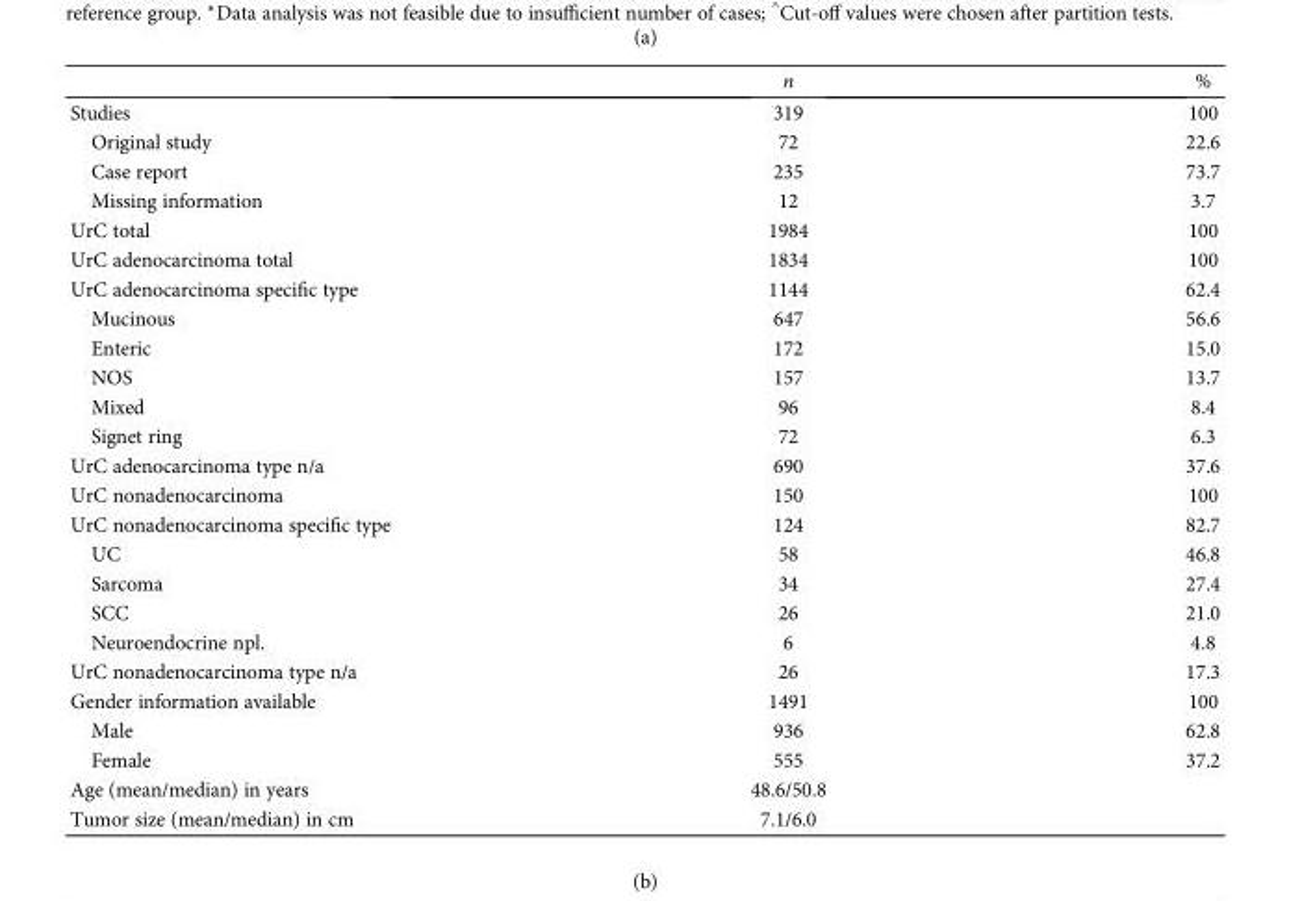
<table><thead><tr><td></td><td>n</td><td>%</td></tr></thead><tbody><tr><td>Studies</td><td>319</td><td>100</td></tr><tr><td>Original study</td><td>72</td><td>22.6</td></tr><tr><td>Case report</td><td>235</td><td>73.7</td></tr><tr><td>Missing information</td><td>12</td><td>3.7</td></tr><tr><td>UrC total</td><td>1984</td><td>100</td></tr><tr><td>UrC adenocarcinoma total</td><td>1834</td><td>100</td></tr><tr><td>UrC adenocarcinoma specific type</td><td>1144</td><td>62.4</td></tr><tr><td>Mucinous</td><td>647</td><td>56.6</td></tr><tr><td>Enteric</td><td>172</td><td>15.0</td></tr><tr><td>NOS</td><td>157</td><td>13.7</td></tr><tr><td>Mixed</td><td>96</td><td>8.4</td></tr><tr><td>Signet ring</td><td>72</td><td>6.3</td></tr><tr><td>UrC adenocarcinoma type n/a</td><td>690</td><td>37.6</td></tr><tr><td>UrC nonadenocarcinoma</td><td>150</td><td>100</td></tr><tr><td>UrC nonadenocarcinoma specific type</td><td>124</td><td>82.7</td></tr><tr><td>UC</td><td>58</td><td>46.8</td></tr><tr><td>Sarcoma</td><td>34</td><td>27.4</td></tr><tr><td>SCC</td><td>26</td><td>21.0</td></tr><tr><td>Neuroendocrine npl.</td><td>6</td><td>4.8</td></tr><tr><td>UrC nonadenocarcinoma type n/a</td><td>26</td><td>17.3</td></tr><tr><td>Gender information available</td><td>1491</td><td>100</td></tr><tr><td>Male</td><td>936</td><td>62.8</td></tr><tr><td>Female</td><td>555</td><td>37.2</td></tr><tr><td>Age (mean/median) in years</td><td>48.6/50.8</td><td></td></tr><tr><td>Tumor size (mean/median) in cm</td><td>7.1/6.0</td><td></td></tr></tbody></table>